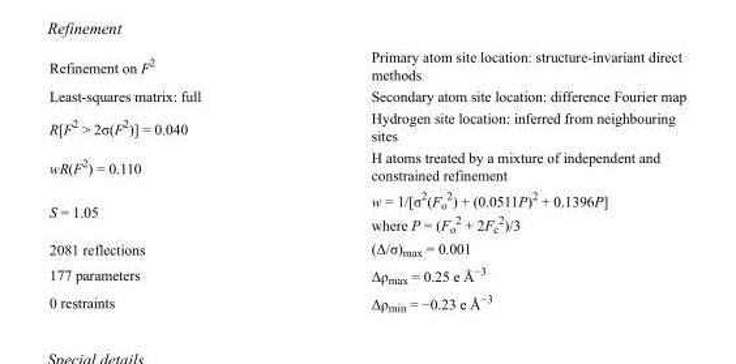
<table><tbody><tr><td>Refinement on F<sup>2</sup></td><td>Primary atom site location: structure-invariant direct methods</td></tr><tr><td>Least-squares matrix: full</td><td>Secondary atom site location: difference Fourier map</td></tr><tr><td>R[F<sup>2</sup> &gt; 2σ(F<sup>2</sup>)] = 0.040</td><td>Hydrogen site location: inferred from neighbouring sites</td></tr><tr><td>wR(F<sup>2</sup>) = 0.110</td><td>H atoms treated by a mixture of independent and constrained refinement</td></tr><tr><td>S = 1.05</td><td>w = 1/[σ<sup>2</sup>(F<sub>o</sub> <sup>2</sup>) + (0.0511P)<sup>2</sup> + 0.1396P] where P = (F<sub>o</sub> <sup>2</sup> + 2F<sub>c</sub> <sup>2</sup>)/3</td></tr><tr><td>2081 reflections</td><td>(Δ/σ)<sub>max</sub> = 0.001</td></tr><tr><td>177 parameters</td><td>Δρ<sub>max</sub> = 0.25 e Å<sup>−3</sup></td></tr><tr><td>0 restraints</td><td>Δρ<sub>min</sub> = −0.23 e Å<sup>−3</sup></td></tr></tbody></table>